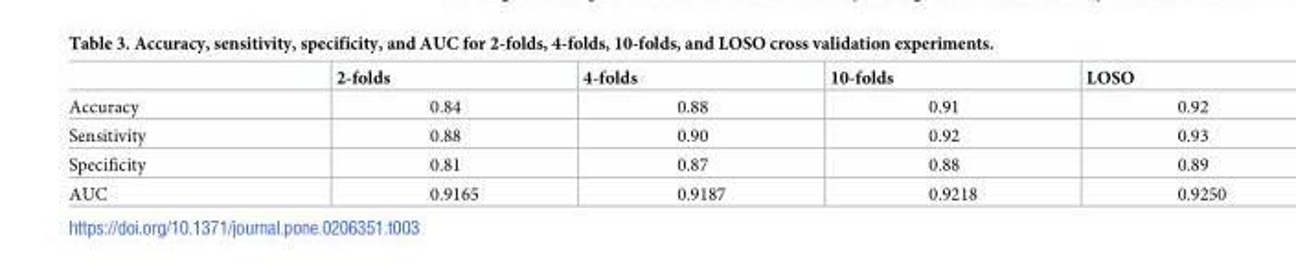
<table><thead><tr><td></td><td>2-folds</td><td>4-folds</td><td>10-folds</td><td>LOSO</td></tr></thead><tbody><tr><td>Accuracy</td><td>0.84</td><td>0.88</td><td>0.91</td><td>0.92</td></tr><tr><td>Sensitivity</td><td>0.88</td><td>0.90</td><td>0.92</td><td>0.93</td></tr><tr><td>Specificity</td><td>0.81</td><td>0.87</td><td>0.88</td><td>0.89</td></tr><tr><td>AUC</td><td>0.9165</td><td>0.9187</td><td>0.9218</td><td>0.9250</td></tr></tbody></table>